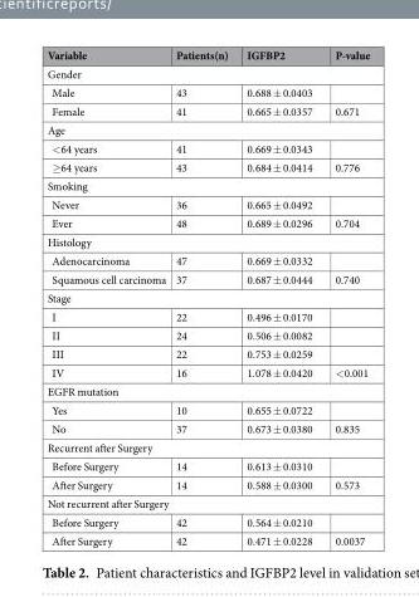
<table><thead><tr><td>Variable</td><td>Patients(n)</td><td>IGFBP2</td><td>P-value</td></tr></thead><tbody><tr><td colspan="4">Gender</td></tr><tr><td>Male</td><td>43</td><td>0.688 ± 0.0403</td><td></td></tr><tr><td>Female</td><td>41</td><td>0.665 ± 0.0357</td><td>0.671</td></tr><tr><td colspan="4">Age</td></tr><tr><td>&lt;64 years</td><td>41</td><td>0.669 ± 0.0343</td><td></td></tr><tr><td>≥64 years</td><td>43</td><td>0.684 ± 0.0414</td><td>0.776</td></tr><tr><td colspan="4">Smoking</td></tr><tr><td>Never</td><td>36</td><td>0.665 ± 0.0492</td><td></td></tr><tr><td>Ever</td><td>48</td><td>0.689 ± 0.0296</td><td>0.704</td></tr><tr><td colspan="4">Histology</td></tr><tr><td>Adenocarcinoma</td><td>47</td><td>0.669 ± 0.0332</td><td></td></tr><tr><td>Squamous cell carcinoma</td><td>37</td><td>0.687 ± 0.0444</td><td>0.740</td></tr><tr><td colspan="4">Stage</td></tr><tr><td>I</td><td>22</td><td>0.496 ± 0.0170</td><td></td></tr><tr><td>II</td><td>24</td><td>0.506 ± 0.0082</td><td></td></tr><tr><td>III</td><td>22</td><td>0.753 ± 0.0259</td><td></td></tr><tr><td>IV</td><td>16</td><td>1.078 ± 0.0420</td><td>&lt;0.001</td></tr><tr><td colspan="4">EGFR mutation</td></tr><tr><td>Yes</td><td>10</td><td>0.655 ± 0.0722</td><td></td></tr><tr><td>No</td><td>37</td><td>0.673 ± 0.0380</td><td>0.835</td></tr><tr><td colspan="4">Recurrent after Surgery</td></tr><tr><td>Before Surgery</td><td>14</td><td>0.613 ± 0.0310</td><td></td></tr><tr><td>After Surgery</td><td>14</td><td>0.588 ± 0.0300</td><td>0.573</td></tr><tr><td colspan="4">Not recurrent after Surgery</td></tr><tr><td>Before Surgery</td><td>42</td><td>0.564 ± 0.0210</td><td></td></tr><tr><td>After Surgery</td><td>42</td><td>0.471 ± 0.0228</td><td>0.0037</td></tr></tbody></table>